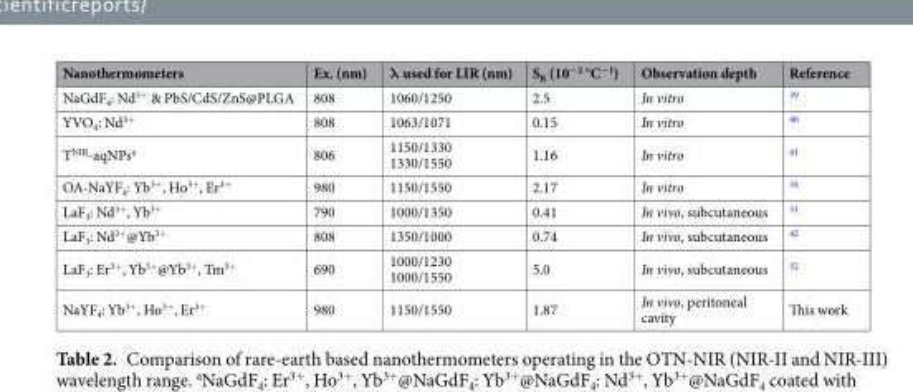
<table><thead><tr><td>Nanothermometers</td><td>Ex. (nm)</td><td>λ used for LIR (nm)</td><td>S<sub>R</sub> (10<sup>−2</sup> °C<sup>−1</sup>)</td><td>Observation depth</td><td>Reference</td></tr></thead><tbody><tr><td>NaGdF<sub>4</sub>: Nd<sup>3+</sup> &amp; PbS/CdS/ZnS@PLGA</td><td>808</td><td>1060/1250</td><td>2.5</td><td>In vitro</td><td><sup>39</sup></td></tr><tr><td>YVO<sub>4</sub>: Nd<sup>3+</sup></td><td>808</td><td>1063/1071</td><td>0.15</td><td>In vitro</td><td><sup>40</sup></td></tr><tr><td>T<sup>NIR</sup>-aqNPs<sup>a</sup></td><td>806</td><td>1150/1330 1330/1550</td><td>1.16</td><td>In vitro</td><td><sup>41</sup></td></tr><tr><td>OA-NaYF<sub>4</sub>: Yb<sup>3+</sup>, Ho<sup>3+</sup>, Er<sup>3+</sup></td><td>980</td><td>1150/1550</td><td>2.17</td><td>In vitro</td><td><sup>34</sup></td></tr><tr><td>LaF<sub>3</sub>: Nd<sup>3+</sup>, Yb<sup>3+</sup></td><td>790</td><td>1000/1350</td><td>0.41</td><td>In vivo, subcutaneous</td><td><sup>31</sup></td></tr><tr><td>LaF<sub>3</sub>: Nd<sup>3+</sup>@Yb<sup>3+</sup></td><td>808</td><td>1350/1000</td><td>0.74</td><td>In vivo, subcutaneous</td><td><sup>42</sup></td></tr><tr><td>LaF<sub>3</sub>: Er<sup>3+</sup>, Yb<sup>3+</sup>@Yb<sup>3+</sup>, Tm<sup>3+</sup></td><td>690</td><td>1000/1230 1000/1550</td><td>5.0</td><td>In vivo, subcutaneous</td><td><sup>32</sup></td></tr><tr><td>NaYF<sub>4</sub>: Yb<sup>3+</sup>, Ho<sup>3+</sup>, Er<sup>3+</sup></td><td>980</td><td>1150/1550</td><td>1.87</td><td>In vivo, peritoneal cavity</td><td>This work</td></tr></tbody></table>